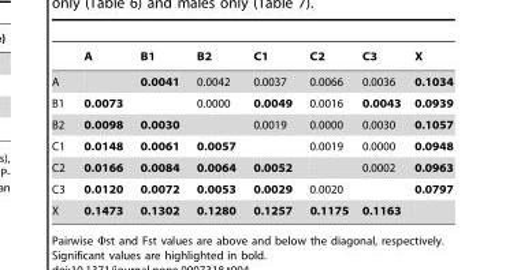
<table><thead><tr><td></td><td>A</td><td>B1</td><td>B2</td><td>C1</td><td>C2</td><td>C3</td><td>X</td></tr></thead><tbody><tr><td>A</td><td></td><td>0.0041</td><td>0.0042</td><td>0.0037</td><td>0.0066</td><td>0.0036</td><td>0.1034</td></tr><tr><td>B1</td><td>0.0073</td><td></td><td>0.0000</td><td>0.0049</td><td>0.0016</td><td>0.0043</td><td>0.0939</td></tr><tr><td>B2</td><td>0.0098</td><td>0.0030</td><td></td><td>0.0019</td><td>0.0000</td><td>0.0030</td><td>0.1057</td></tr><tr><td>C1</td><td>0.0148</td><td>0.0061</td><td>0.0057</td><td></td><td>0.0019</td><td>0.0000</td><td>0.0948</td></tr><tr><td>C2</td><td>0.0166</td><td>0.0084</td><td>0.0064</td><td>0.0052</td><td></td><td>0.0002</td><td>0.0963</td></tr><tr><td>C3</td><td>0.0120</td><td>0.0072</td><td>0.0053</td><td>0.0029</td><td>0.0020</td><td></td><td>0.0797</td></tr><tr><td>X</td><td>0.1473</td><td>0.1302</td><td>0.1280</td><td>0.1257</td><td>0.1175</td><td>0.1163</td><td></td></tr></tbody></table>